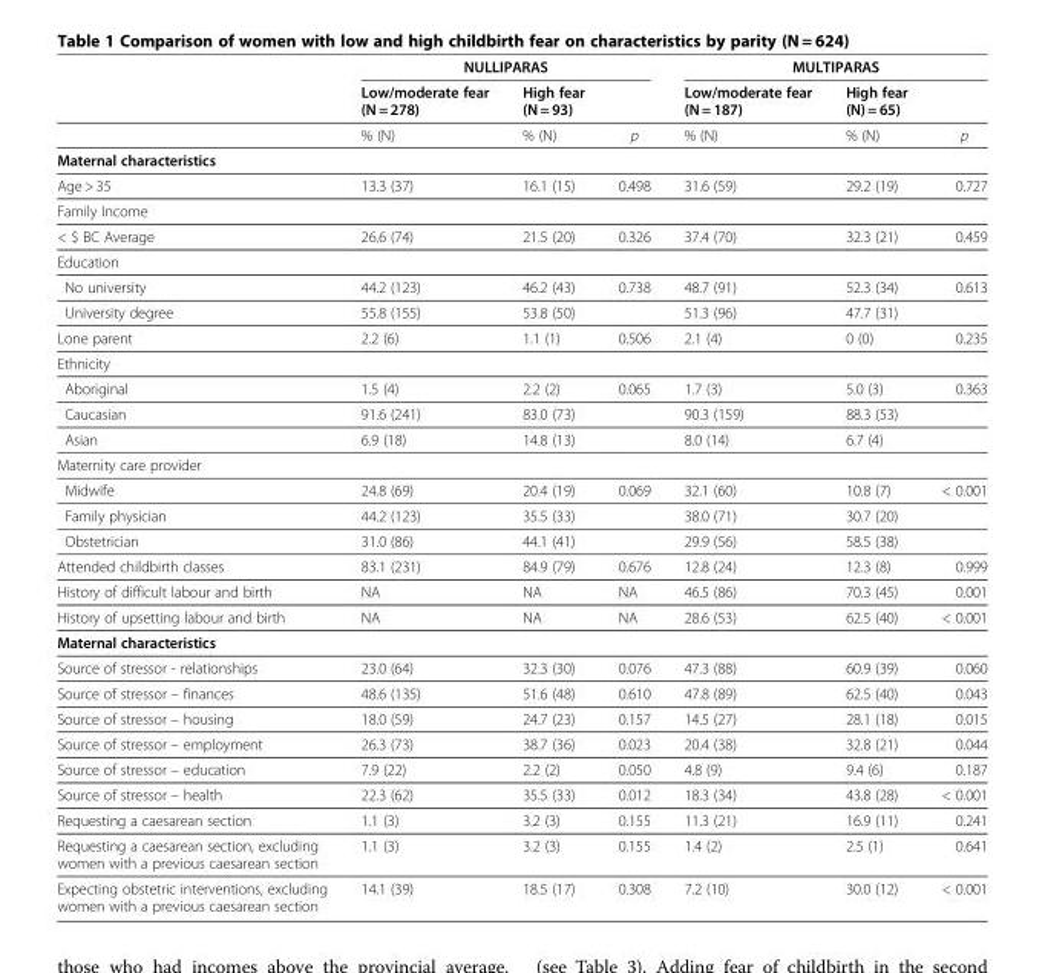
<table><thead><tr><td rowspan="2"></td><td colspan="3">NULLIPARAS</td><td colspan="3">MULTIPARAS</td></tr><tr><td>Low/moderate fear (N = 278)</td><td>High fear (N = 93)</td><td></td><td>Low/moderate fear (N = 187)</td><td>High fear (N) = 65)</td><td></td></tr></thead><tbody><tr><td></td><td>% (N)</td><td>% (N)</td><td>p</td><td>% (N)</td><td>% (N)</td><td>p</td></tr><tr><td colspan="7">Maternal characteristics</td></tr><tr><td>Age &gt; 35</td><td>13.3 (37)</td><td>16.1 (15)</td><td>0.498</td><td>31.6 (59)</td><td>29.2 (19)</td><td>0.727</td></tr><tr><td colspan="7">Family Income</td></tr><tr><td>&lt; $ BC Average</td><td>26.6 (74)</td><td>21.5 (20)</td><td>0.326</td><td>37.4 (70)</td><td>32.3 (21)</td><td>0.459</td></tr><tr><td colspan="7">Education</td></tr><tr><td>No university</td><td>44.2 (123)</td><td>46.2 (43)</td><td>0.738</td><td>48.7 (91)</td><td>52.3 (34)</td><td>0.613</td></tr><tr><td>University degree</td><td>55.8 (155)</td><td>53.8 (50)</td><td></td><td>51.3 (96)</td><td>47.7 (31)</td><td></td></tr><tr><td>Lone parent</td><td>2.2 (6)</td><td>1.1 (1)</td><td>0.506</td><td>2.1 (4)</td><td>0 (0)</td><td>0.235</td></tr><tr><td colspan="7">Ethnicity</td></tr><tr><td>Aboriginal</td><td>1.5 (4)</td><td>2.2 (2)</td><td>0.065</td><td>1.7 (3)</td><td>5.0 (3)</td><td>0.363</td></tr><tr><td>Caucasian</td><td>91.6 (241)</td><td>83.0 (73)</td><td></td><td>90.3 (159)</td><td>88.3 (53)</td><td></td></tr><tr><td>Asian</td><td>6.9 (18)</td><td>14.8 (13)</td><td></td><td>8.0 (14)</td><td>6.7 (4)</td><td></td></tr><tr><td colspan="7">Maternity care provider</td></tr><tr><td>Midwife</td><td>24.8 (69)</td><td>20.4 (19)</td><td>0.069</td><td>32.1 (60)</td><td>10.8 (7)</td><td>&lt; 0.001</td></tr><tr><td>Family physician</td><td>44.2 (123)</td><td>35.5 (33)</td><td></td><td>38.0 (71)</td><td>30.7 (20)</td><td></td></tr><tr><td>Obstetrician</td><td>31.0 (86)</td><td>44.1 (41)</td><td></td><td>29.9 (56)</td><td>58.5 (38)</td><td></td></tr><tr><td>Attended childbirth classes</td><td>83.1 (231)</td><td>84.9 (79)</td><td>0.676</td><td>12.8 (24)</td><td>12.3 (8)</td><td>0.999</td></tr><tr><td>History of difficult labour and birth</td><td>NA</td><td>NA</td><td>NA</td><td>46.5 (86)</td><td>70.3 (45)</td><td>0.001</td></tr><tr><td>History of upsetting labour and birth</td><td>NA</td><td>NA</td><td>NA</td><td>28.6 (53)</td><td>62.5 (40)</td><td>&lt; 0.001</td></tr><tr><td colspan="7">Maternal characteristics</td></tr><tr><td>Source of stressor - relationships</td><td>23.0 (64)</td><td>32.3 (30)</td><td>0.076</td><td>47.3 (88)</td><td>60.9 (39)</td><td>0.060</td></tr><tr><td>Source of stressor – finances</td><td>48.6 (135)</td><td>51.6 (48)</td><td>0.610</td><td>47.8 (89)</td><td>62.5 (40)</td><td>0.043</td></tr><tr><td>Source of stressor – housing</td><td>18.0 (59)</td><td>24.7 (23)</td><td>0.157</td><td>14.5 (27)</td><td>28.1 (18)</td><td>0.015</td></tr><tr><td>Source of stressor – employment</td><td>26.3 (73)</td><td>38.7 (36)</td><td>0.023</td><td>20.4 (38)</td><td>32.8 (21)</td><td>0.044</td></tr><tr><td>Source of stressor – education</td><td>7.9 (22)</td><td>2.2 (2)</td><td>0.050</td><td>4.8 (9)</td><td>9.4 (6)</td><td>0.187</td></tr><tr><td>Source of stressor – health</td><td>22.3 (62)</td><td>35.5 (33)</td><td>0.012</td><td>18.3 (34)</td><td>43.8 (28)</td><td>&lt; 0.001</td></tr><tr><td>Requesting a caesarean section</td><td>1.1 (3)</td><td>3.2 (3)</td><td>0.155</td><td>11.3 (21)</td><td>16.9 (11)</td><td>0.241</td></tr><tr><td>Requesting a caesarean section, excluding women with a previous caesarean section</td><td>1.1 (3)</td><td>3.2 (3)</td><td>0.155</td><td>1.4 (2)</td><td>2.5 (1)</td><td>0.641</td></tr><tr><td>Expecting obstetric interventions, excluding women with a previous caesarean section</td><td>14.1 (39)</td><td>18.5 (17)</td><td>0.308</td><td>7.2 (10)</td><td>30.0 (12)</td><td>&lt; 0.001</td></tr></tbody></table>